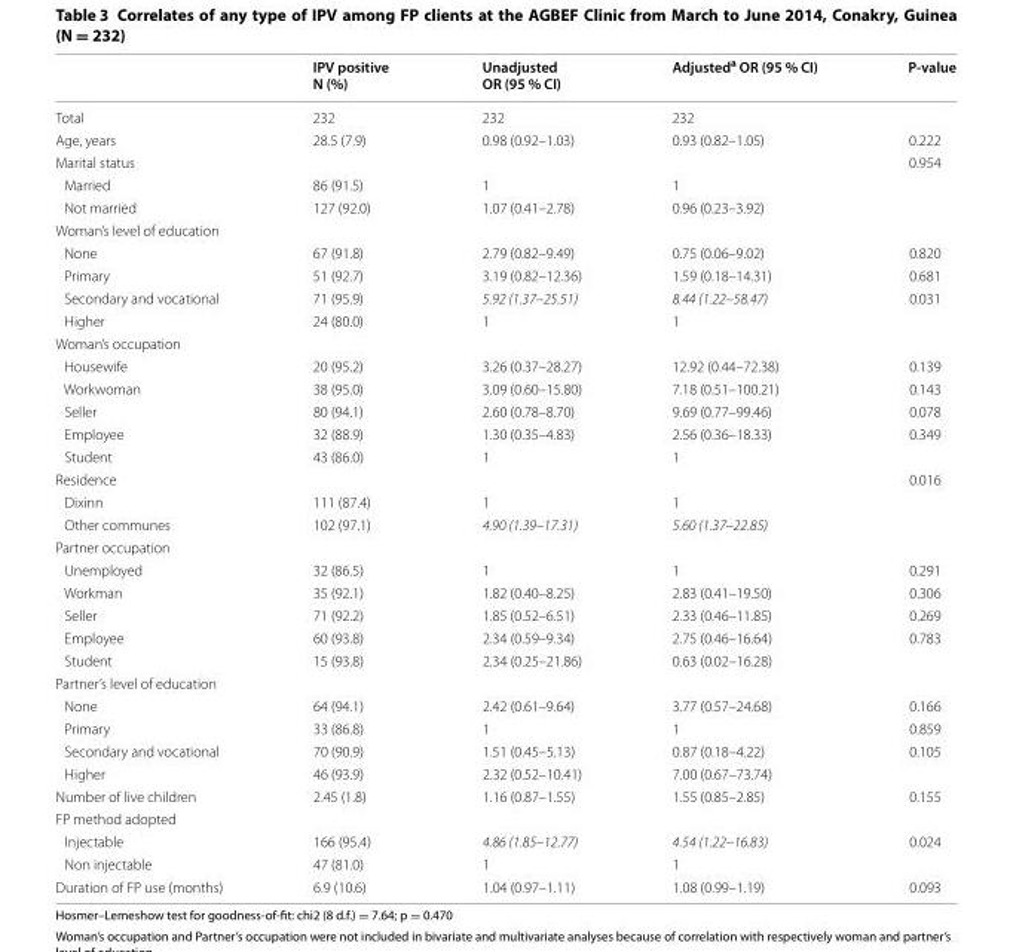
<table><thead><tr><td></td><td>IPV positive N (%)</td><td>Unadjusted OR (95 % CI)</td><td>Adjusted<sup>a</sup> OR (95 % CI)</td><td>P-value</td></tr></thead><tbody><tr><td>Total</td><td>232</td><td>232</td><td>232</td><td></td></tr><tr><td>Age, years</td><td>28.5 (7.9)</td><td>0.98 (0.92–1.03)</td><td>0.93 (0.82–1.05)</td><td>0.222</td></tr><tr><td colspan="4">Marital status</td><td>0.954</td></tr><tr><td>Married</td><td>86 (91.5)</td><td>1</td><td>1</td><td></td></tr><tr><td>Not married</td><td>127 (92.0)</td><td>1.07 (0.41–2.78)</td><td>0.96 (0.23–3.92)</td><td></td></tr><tr><td colspan="5">Woman’s level of education</td></tr><tr><td>None</td><td>67 (91.8)</td><td>2.79 (0.82–9.49)</td><td>0.75 (0.06–9.02)</td><td>0.820</td></tr><tr><td>Primary</td><td>51 (92.7)</td><td>3.19 (0.82–12.36)</td><td>1.59 (0.18–14.31)</td><td>0.681</td></tr><tr><td>Secondary and vocational</td><td>71 (95.9)</td><td>5.92 (1.37–25.51)</td><td>8.44 (1.22–58.47)</td><td>0.031</td></tr><tr><td>Higher</td><td>24 (80.0)</td><td>1</td><td>1</td><td></td></tr><tr><td colspan="5">Woman’s occupation</td></tr><tr><td>Housewife</td><td>20 (95.2)</td><td>3.26 (0.37–28.27)</td><td>12.92 (0.44–72.38)</td><td>0.139</td></tr><tr><td>Workwoman</td><td>38 (95.0)</td><td>3.09 (0.60–15.80)</td><td>7.18 (0.51–100.21)</td><td>0.143</td></tr><tr><td>Seller</td><td>80 (94.1)</td><td>2.60 (0.78–8.70)</td><td>9.69 (0.77–99.46)</td><td>0.078</td></tr><tr><td>Employee</td><td>32 (88.9)</td><td>1.30 (0.35–4.83)</td><td>2.56 (0.36–18.33)</td><td>0.349</td></tr><tr><td>Student</td><td>43 (86.0)</td><td>1</td><td>1</td><td></td></tr><tr><td colspan="4">Residence</td><td>0.016</td></tr><tr><td>Dixinn</td><td>111 (87.4)</td><td>1</td><td>1</td><td></td></tr><tr><td>Other communes</td><td>102 (97.1)</td><td>4.90 (1.39–17.31)</td><td>5.60 (1.37–22.85)</td><td></td></tr><tr><td colspan="5">Partner occupation</td></tr><tr><td>Unemployed</td><td>32 (86.5)</td><td>1</td><td>1</td><td>0.291</td></tr><tr><td>Workman</td><td>35 (92.1)</td><td>1.82 (0.40–8.25)</td><td>2.83 (0.41–19.50)</td><td>0.306</td></tr><tr><td>Seller</td><td>71 (92.2)</td><td>1.85 (0.52–6.51)</td><td>2.33 (0.46–11.85)</td><td>0.269</td></tr><tr><td>Employee</td><td>60 (93.8)</td><td>2.34 (0.59–9.34)</td><td>2.75 (0.46–16.64)</td><td>0.783</td></tr><tr><td>Student</td><td>15 (93.8)</td><td>2.34 (0.25–21.86)</td><td>0.63 (0.02–16.28)</td><td></td></tr><tr><td colspan="5">Partner’s level of education</td></tr><tr><td>None</td><td>64 (94.1)</td><td>2.42 (0.61–9.64)</td><td>3.77 (0.57–24.68)</td><td>0.166</td></tr><tr><td>Primary</td><td>33 (86.8)</td><td>1</td><td>1</td><td>0.859</td></tr><tr><td>Secondary and vocational</td><td>70 (90.9)</td><td>1.51 (0.45–5.13)</td><td>0.87 (0.18–4.22)</td><td>0.105</td></tr><tr><td>Higher</td><td>46 (93.9)</td><td>2.32 (0.52–10.41)</td><td>7.00 (0.67–73.74)</td><td></td></tr><tr><td>Number of live children</td><td>2.45 (1.8)</td><td>1.16 (0.87–1.55)</td><td>1.55 (0.85–2.85)</td><td>0.155</td></tr><tr><td colspan="5">FP method adopted</td></tr><tr><td>Injectable</td><td>166 (95.4)</td><td>4.86 (1.85–12.77)</td><td>4.54 (1.22–16.83)</td><td>0.024</td></tr><tr><td>Non injectable</td><td>47 (81.0)</td><td>1</td><td>1</td><td></td></tr><tr><td>Duration of FP use (months)</td><td>6.9 (10.6)</td><td>1.04 (0.97–1.11)</td><td>1.08 (0.99–1.19)</td><td>0.093</td></tr></tbody></table>